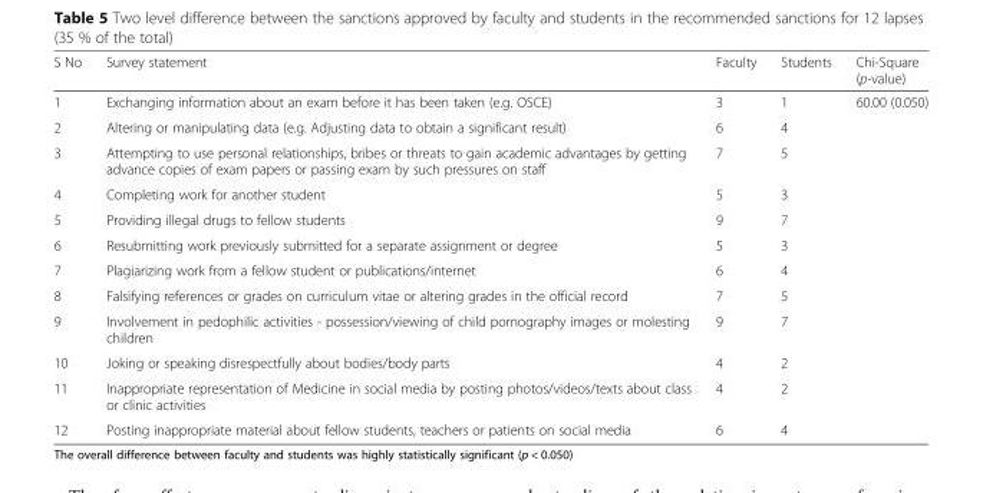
<table><thead><tr><td>S No</td><td>Survey statement</td><td>Faculty</td><td>Students</td><td>Chi-Square (p-value)</td></tr></thead><tbody><tr><td>1</td><td>Exchanging information about an exam before it has been taken (e.g. OSCE)</td><td>3</td><td>1</td><td rowspan="12">60.00 (0.050)</td></tr><tr><td>2</td><td>Altering or manipulating data (e.g. Adjusting data to obtain a significant result)</td><td>6</td><td>4</td></tr><tr><td>3</td><td>Attempting to use personal relationships, bribes or threats to gain academic advantages by getting advance copies of exam papers or passing exam by such pressures on staff</td><td>7</td><td>5</td></tr><tr><td>4</td><td>Completing work for another student</td><td>5</td><td>3</td></tr><tr><td>5</td><td>Providing illegal drugs to fellow students</td><td>9</td><td>7</td></tr><tr><td>6</td><td>Resubmitting work previously submitted for a separate assignment or degree</td><td>5</td><td>3</td></tr><tr><td>7</td><td>Plagiarizing work from a fellow student or publications/internet</td><td>6</td><td>4</td></tr><tr><td>8</td><td>Falsifying references or grades on curriculum vitae or altering grades in the official record</td><td>7</td><td>5</td></tr><tr><td>9</td><td>Involvement in pedophilic activities - possession/viewing of child pornography images or molesting children</td><td>9</td><td>7</td></tr><tr><td>10</td><td>Joking or speaking disrespectfully about bodies/body parts</td><td>4</td><td>2</td></tr><tr><td>11</td><td>Inappropriate representation of Medicine in social media by posting photos/videos/texts about class or clinic activities</td><td>4</td><td>2</td></tr><tr><td>12</td><td>Posting inappropriate material about fellow students, teachers or patients on social media</td><td>6</td><td>4</td></tr></tbody></table>